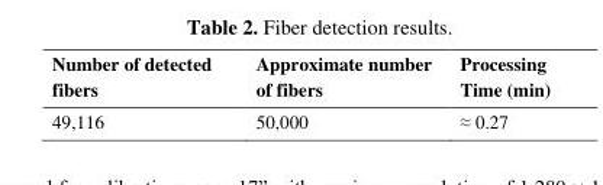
<table><thead><tr><td>Number of detected fibers</td><td>Approximate number of fibers</td><td>Processing Time (min)</td></tr></thead><tbody><tr><td>49,116</td><td>50,000</td><td>≈ 0.27</td></tr></tbody></table>